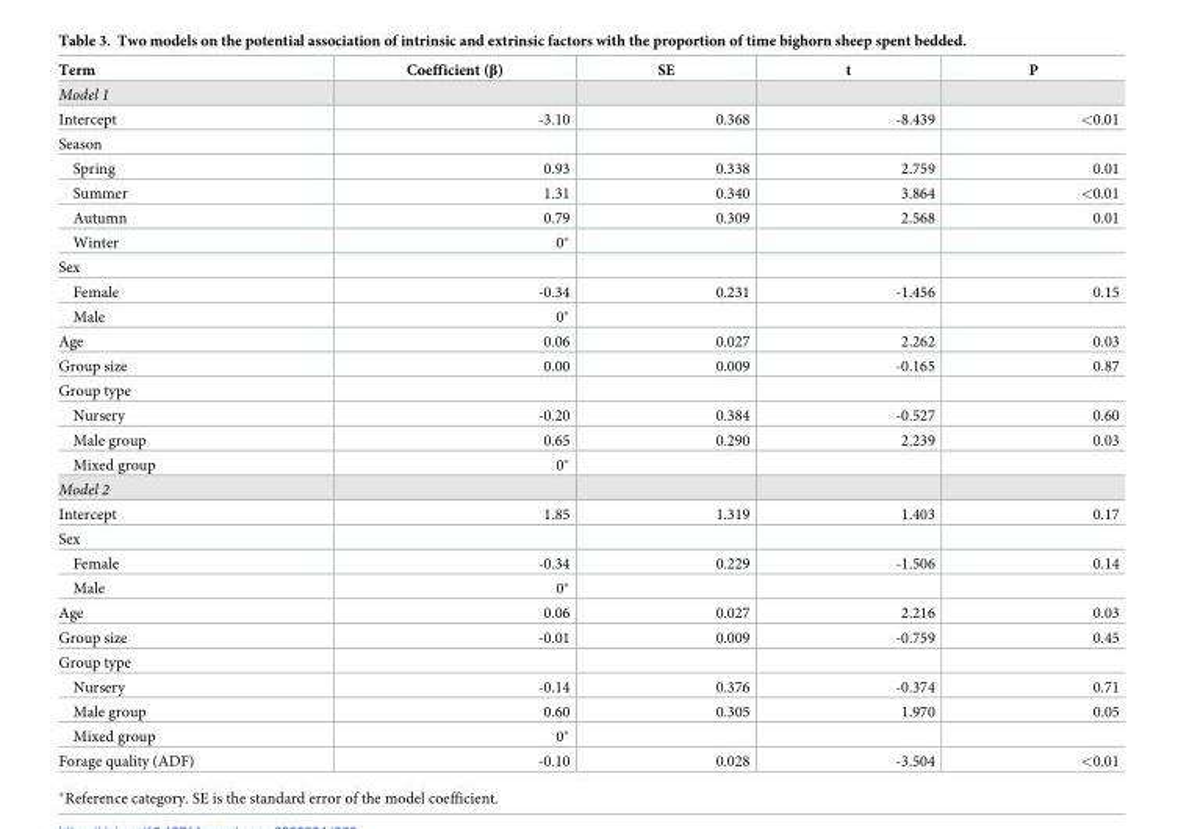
<table><thead><tr><td>Term</td><td>Coefficient (β)</td><td>SE</td><td>t</td><td>P</td></tr></thead><tbody><tr><td colspan="5">Model 1</td></tr><tr><td>Intercept</td><td>-3.10</td><td>0.368</td><td>-8.439</td><td>&lt;0.01</td></tr><tr><td colspan="5">Season</td></tr><tr><td>Spring</td><td>0.93</td><td>0.338</td><td>2.759</td><td>0.01</td></tr><tr><td>Summer</td><td>1.31</td><td>0.340</td><td>3.864</td><td>&lt;0.01</td></tr><tr><td>Autumn</td><td>0.79</td><td>0.309</td><td>2.568</td><td>0.01</td></tr><tr><td>Winter</td><td>0*</td><td></td><td></td><td></td></tr><tr><td colspan="5">Sex</td></tr><tr><td>Female</td><td>-0.34</td><td>0.231</td><td>-1.456</td><td>0.15</td></tr><tr><td>Male</td><td>0*</td><td></td><td></td><td></td></tr><tr><td>Age</td><td>0.06</td><td>0.027</td><td>2.262</td><td>0.03</td></tr><tr><td>Group size</td><td>0.00</td><td>0.009</td><td>-0.165</td><td>0.87</td></tr><tr><td colspan="5">Group type</td></tr><tr><td>Nursery</td><td>-0.20</td><td>0.384</td><td>-0.527</td><td>0.60</td></tr><tr><td>Male group</td><td>0.65</td><td>0.290</td><td>2.239</td><td>0.03</td></tr><tr><td>Mixed group</td><td>0*</td><td></td><td></td><td></td></tr><tr><td colspan="5">Model 2</td></tr><tr><td>Intercept</td><td>1.85</td><td>1.319</td><td>1.403</td><td>0.17</td></tr><tr><td colspan="5">Sex</td></tr><tr><td>Female</td><td>-0.34</td><td>0.229</td><td>-1.506</td><td>0.14</td></tr><tr><td>Male</td><td>0*</td><td></td><td></td><td></td></tr><tr><td>Age</td><td>0.06</td><td>0.027</td><td>2.216</td><td>0.03</td></tr><tr><td>Group size</td><td>-0.01</td><td>0.009</td><td>-0.759</td><td>0.45</td></tr><tr><td colspan="5">Group type</td></tr><tr><td>Nursery</td><td>-0.14</td><td>0.376</td><td>-0.374</td><td>0.71</td></tr><tr><td>Male group</td><td>0.60</td><td>0.305</td><td>1.970</td><td>0.05</td></tr><tr><td>Mixed group</td><td>0*</td><td></td><td></td><td></td></tr><tr><td>Forage quality (ADF)</td><td>-0.10</td><td>0.028</td><td>-3.504</td><td>&lt;0.01</td></tr></tbody></table>